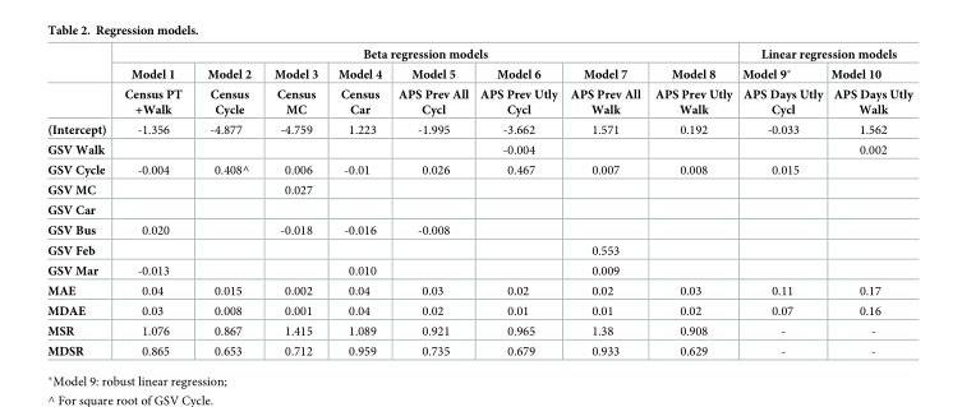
<table><thead><tr><td rowspan="3"></td><td colspan="8">Beta regression models</td><td colspan="2">Linear regression models</td></tr><tr><td rowspan="2">Model 1 Census PT +Walk</td><td rowspan="2">Model 2 Census Cycle</td><td rowspan="2">Model 3 Census MC</td><td rowspan="2">Model 4 Census Car</td><td rowspan="2">Model 5 APS Prev All Cycl</td><td rowspan="2">Model 6 APS Prev Utly Cycl</td><td rowspan="2">Model 7 APS Prev All Walk</td><td rowspan="2">Model 8 APS Prev Utly Walk</td><td rowspan="2">Model 9* APS Days Utly Cycl</td><td rowspan="2">Model 10 APS Days Utly Walk</td></tr><tr></tr></thead><tbody><tr><td>(Intercept)</td><td>-1.356</td><td>-4.877</td><td>-4.759</td><td>1.223</td><td>-1.995</td><td>-3.662</td><td>1.571</td><td>0.192</td><td>-0.033</td><td>1.562</td></tr><tr><td>GSV Walk</td><td></td><td></td><td></td><td></td><td></td><td>-0.004</td><td></td><td></td><td></td><td>0.002</td></tr><tr><td>GSV Cycle</td><td>-0.004</td><td>0.408^</td><td>0.006</td><td>-0.01</td><td>0.026</td><td>0.467</td><td>0.007</td><td>0.008</td><td>0.015</td><td></td></tr><tr><td>GSV MC</td><td></td><td></td><td>0.027</td><td></td><td></td><td></td><td></td><td></td><td></td><td></td></tr><tr><td colspan="11">GSV Car</td></tr><tr><td>GSV Bus</td><td>0.020</td><td></td><td>-0.018</td><td>-0.016</td><td>-0.008</td><td></td><td></td><td></td><td></td><td></td></tr><tr><td>GSV Feb</td><td></td><td></td><td></td><td></td><td></td><td></td><td>0.553</td><td></td><td></td><td></td></tr><tr><td>GSV Mar</td><td>-0.013</td><td></td><td></td><td>0.010</td><td></td><td></td><td>0.009</td><td></td><td></td><td></td></tr><tr><td>MAE</td><td>0.04</td><td>0.015</td><td>0.002</td><td>0.04</td><td>0.03</td><td>0.02</td><td>0.02</td><td>0.03</td><td>0.11</td><td>0.17</td></tr><tr><td>MDAE</td><td>0.03</td><td>0.008</td><td>0.001</td><td>0.04</td><td>0.02</td><td>0.01</td><td>0.01</td><td>0.02</td><td>0.07</td><td>0.16</td></tr><tr><td>MSR</td><td>1.076</td><td>0.867</td><td>1.415</td><td>1.089</td><td>0.921</td><td>0.965</td><td>1.38</td><td>0.908</td><td>-</td><td>-</td></tr><tr><td>MDSR</td><td>0.865</td><td>0.653</td><td>0.712</td><td>0.959</td><td>0.735</td><td>0.679</td><td>0.933</td><td>0.629</td><td>-</td><td>-</td></tr></tbody></table>